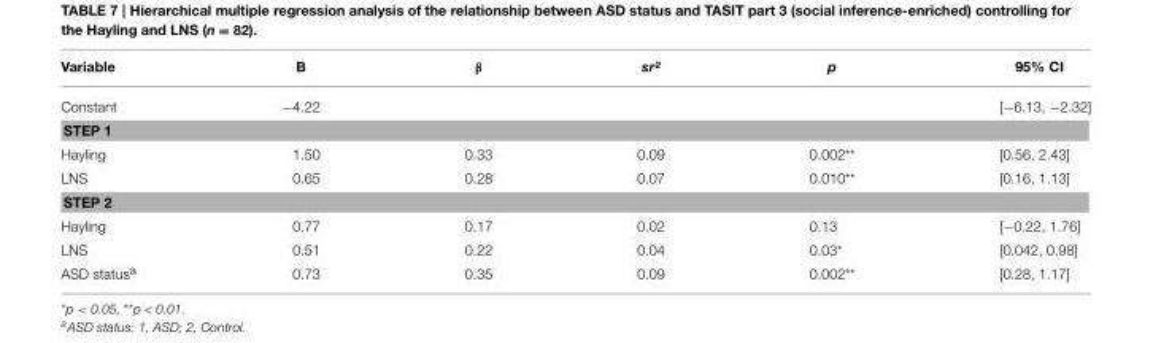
<table><thead><tr><td>Variable</td><td>B</td><td>β</td><td>sr²</td><td>p</td><td>95% CI</td></tr></thead><tbody><tr><td>Constant</td><td>−4.22</td><td></td><td></td><td></td><td>[−6.13, −2.32]</td></tr><tr><td colspan="6">STEP 1</td></tr><tr><td>Hayling</td><td>1.50</td><td>0.33</td><td>0.09</td><td>0.002**</td><td>[0.56, 2.43]</td></tr><tr><td>LNS</td><td>0.65</td><td>0.28</td><td>0.07</td><td>0.010**</td><td>[0.16, 1.13]</td></tr><tr><td colspan="6">STEP 2</td></tr><tr><td>Hayling</td><td>0.77</td><td>0.17</td><td>0.02</td><td>0.13</td><td>[−0.22, 1.76]</td></tr><tr><td>LNS</td><td>0.51</td><td>0.22</td><td>0.04</td><td>0.03*</td><td>[0.042, 0.98]</td></tr><tr><td>ASD status<sup>a</sup></td><td>0.73</td><td>0.35</td><td>0.09</td><td>0.002**</td><td>[0.28, 1.17]</td></tr></tbody></table>